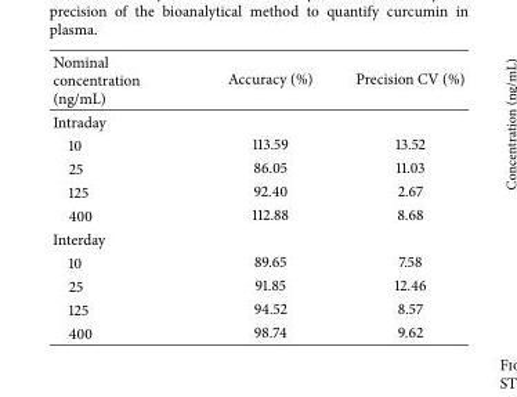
<table><thead><tr><td>Nominal concentration (ng/mL)</td><td>Accuracy (%)</td><td>Precision CV (%)</td></tr></thead><tbody><tr><td colspan="3">Intraday</td></tr><tr><td>10</td><td>113.59</td><td>13.52</td></tr><tr><td>25</td><td>86.05</td><td>11.03</td></tr><tr><td>125</td><td>92.40</td><td>2.67</td></tr><tr><td>400</td><td>112.88</td><td>8.68</td></tr><tr><td colspan="3">Interday</td></tr><tr><td>10</td><td>89.65</td><td>7.58</td></tr><tr><td>25</td><td>91.85</td><td>12.46</td></tr><tr><td>125</td><td>94.52</td><td>8.57</td></tr><tr><td>400</td><td>98.74</td><td>9.62</td></tr></tbody></table>